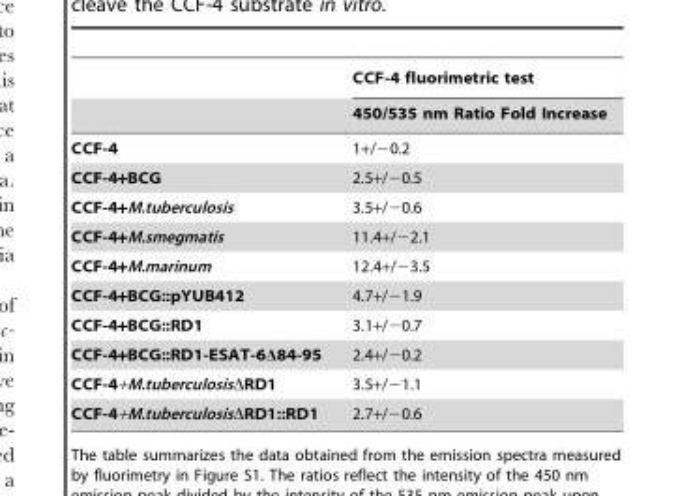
<table><thead><tr><td rowspan="2"></td><td rowspan="2">CCF-4 fluorimetric test 450/535 nm Ratio Fold Increase</td></tr><tr></tr></thead><tbody><tr><td>CCF-4</td><td>1+/−0.2</td></tr><tr><td>CCF-4+BCG</td><td>2.5+/−0.5</td></tr><tr><td>CCF-4+M.tuberculosis</td><td>3.5+/−0.6</td></tr><tr><td>CCF-4+M.smegmatis</td><td>11.4+/−2.1</td></tr><tr><td>CCF-4+M.marinum</td><td>12.4+/−3.5</td></tr><tr><td>CCF-4+BCG::pYUB412</td><td>4.7+/−1.9</td></tr><tr><td>CCF-4+BCG::RD1</td><td>3.1+/−0.7</td></tr><tr><td>CCF-4+BCG::RD1-ESAT-6Δ84-95</td><td>2.4+/−0.2</td></tr><tr><td>CCF-4+M.tuberculosisΔRD1</td><td>3.5+/−1.1</td></tr><tr><td>CCF-4+M.tuberculosisΔRD1::RD1</td><td>2.7+/−0.6</td></tr></tbody></table>